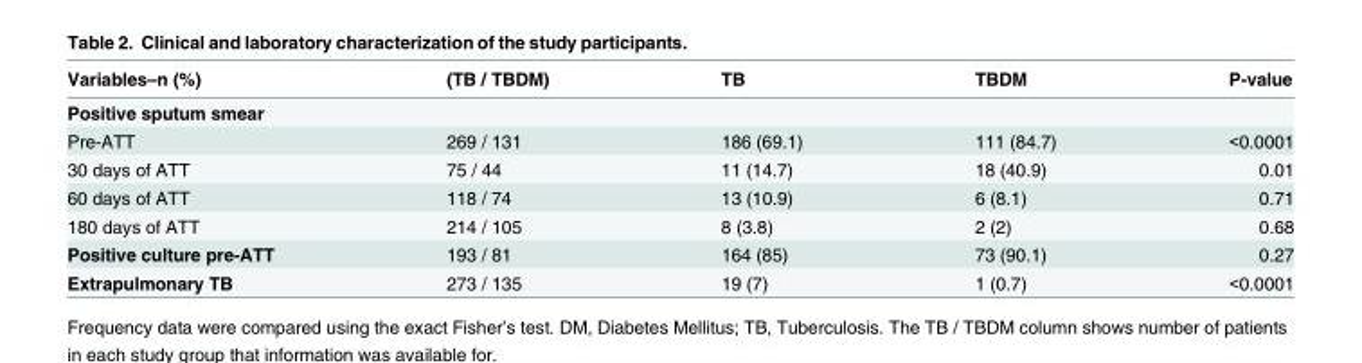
<table><thead><tr><td>Variables–n (%)</td><td>(TB / TBDM)</td><td>TB</td><td>TBDM</td><td>P-value</td></tr></thead><tbody><tr><td colspan="5">Positive sputum smear</td></tr><tr><td>Pre-ATT</td><td>269 / 131</td><td>186 (69.1)</td><td>111 (84.7)</td><td>&lt;0.0001</td></tr><tr><td>30 days of ATT</td><td>75 / 44</td><td>11 (14.7)</td><td>18 (40.9)</td><td>0.01</td></tr><tr><td>60 days of ATT</td><td>118 / 74</td><td>13 (10.9)</td><td>6 (8.1)</td><td>0.71</td></tr><tr><td>180 days of ATT</td><td>214 / 105</td><td>8 (3.8)</td><td>2 (2)</td><td>0.68</td></tr><tr><td>Positive culture pre-ATT</td><td>193 / 81</td><td>164 (85)</td><td>73 (90.1)</td><td>0.27</td></tr><tr><td>Extrapulmonary TB</td><td>273 / 135</td><td>19 (7)</td><td>1 (0.7)</td><td>&lt;0.0001</td></tr></tbody></table>